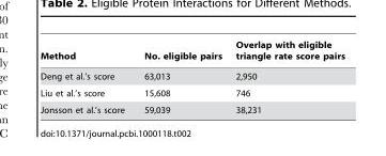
<table><thead><tr><td>Method</td><td>No. eligible pairs</td><td>Overlap with eligible triangle rate score pairs</td></tr></thead><tbody><tr><td>Deng et al.’s score</td><td>63,013</td><td>2,950</td></tr><tr><td>Liu et al.’s score</td><td>15,608</td><td>746</td></tr><tr><td>Jonsson et al.’s score</td><td>59,039</td><td>38,231</td></tr></tbody></table>